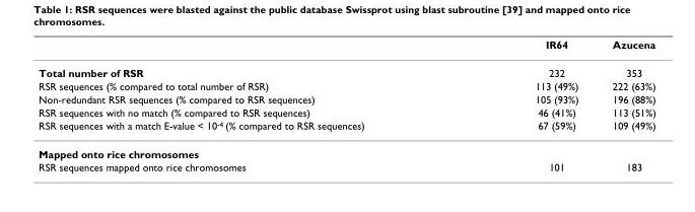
<table><thead><tr><td></td><td>IR64</td><td>Azucena</td></tr></thead><tbody><tr><td>Total number of RSR</td><td>232</td><td>353</td></tr><tr><td>RSR sequences (% compared to total number of RSR)</td><td>113 (49%)</td><td>222 (63%)</td></tr><tr><td>Non-redundant RSR sequences (% compared to RSR sequences)</td><td>105 (93%)</td><td>196 (88%)</td></tr><tr><td>RSR sequences with no match (% compared to RSR sequences)</td><td>46 (41%)</td><td>113 (51%)</td></tr><tr><td>RSR sequences with a match E-value &lt; 10<sup>-4</sup> (% compared to RSR sequences)</td><td>67 (59%)</td><td>109 (49%)</td></tr><tr><td colspan="3">Mapped onto rice chromosomes</td></tr><tr><td>RSR sequences mapped onto rice chromosomes</td><td>101</td><td>183</td></tr></tbody></table>